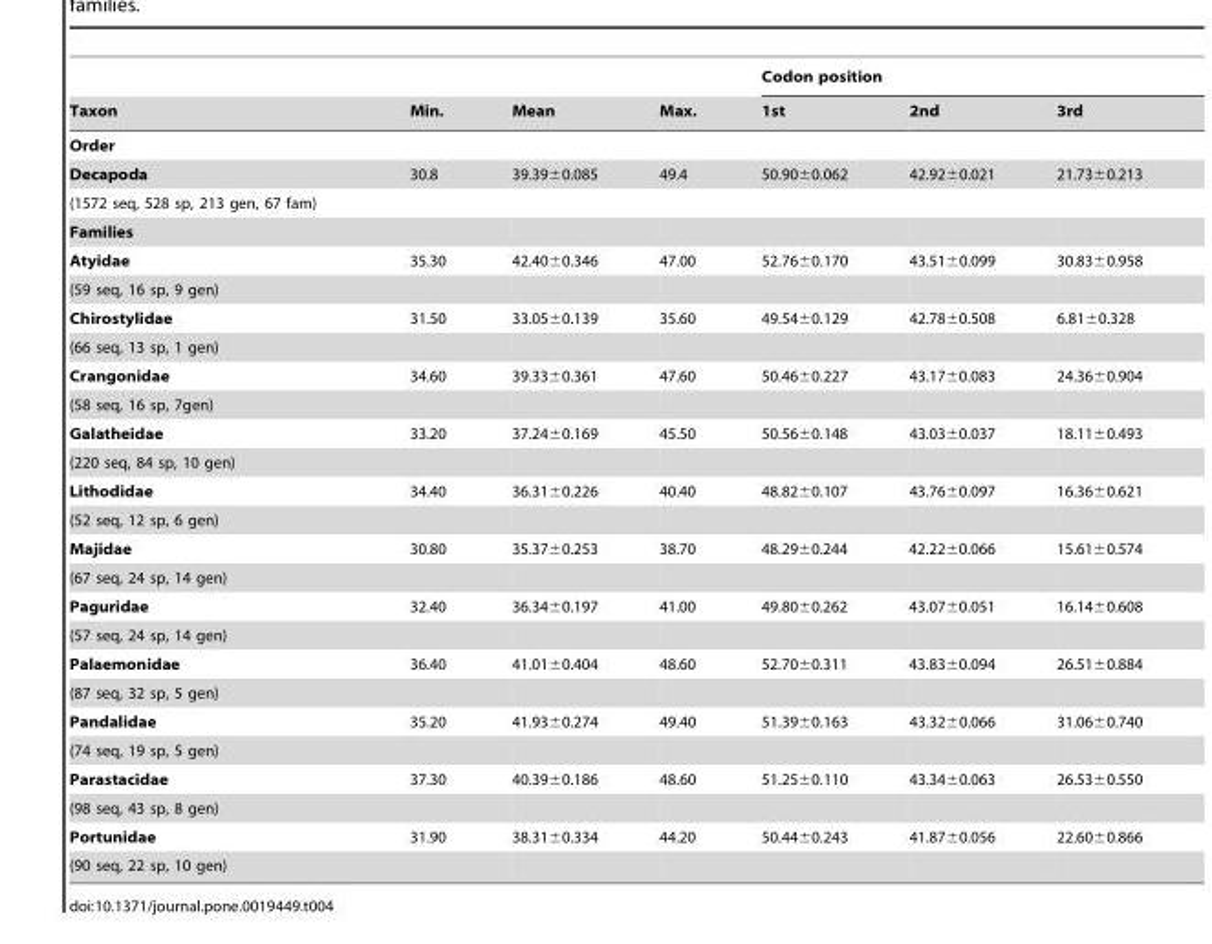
<table><thead><tr><td rowspan="2">Taxon</td><td rowspan="2">Min.</td><td rowspan="2">Mean</td><td rowspan="2">Max.</td><td colspan="3">Codon position</td></tr><tr><td>1st</td><td>2nd</td><td>3rd</td></tr></thead><tbody><tr><td colspan="7">Order</td></tr><tr><td>Decapoda</td><td>30.8</td><td>39.39±0.085</td><td>49.4</td><td>50.90±0.062</td><td>42.92±0.021</td><td>21.73±0.213</td></tr><tr><td colspan="7">(1572 seq, 528 sp, 213 gen, 67 fam)</td></tr><tr><td colspan="7">Families</td></tr><tr><td>Atyidae</td><td>35.30</td><td>42.40±0.346</td><td>47.00</td><td>52.76±0.170</td><td>43.51±0.099</td><td>30.83±0.958</td></tr><tr><td colspan="7">(59 seq, 16 sp, 9 gen)</td></tr><tr><td>Chirostylidae</td><td>31.50</td><td>33.05±0.139</td><td>35.60</td><td>49.54±0.129</td><td>42.78±0.508</td><td>6.81±0.328</td></tr><tr><td colspan="7">(66 seq, 13 sp, 1 gen)</td></tr><tr><td>Crangonidae</td><td>34.60</td><td>39.33±0.361</td><td>47.60</td><td>50.46±0.227</td><td>43.17±0.083</td><td>24.36±0.904</td></tr><tr><td colspan="7">(58 seq, 16 sp, 7gen)</td></tr><tr><td>Galatheidae</td><td>33.20</td><td>37.24±0.169</td><td>45.50</td><td>50.56±0.148</td><td>43.03±0.037</td><td>18.11±0.493</td></tr><tr><td colspan="7">(220 seq, 84 sp, 10 gen)</td></tr><tr><td>Lithodidae</td><td>34.40</td><td>36.31±0.226</td><td>40.40</td><td>48.82±0.107</td><td>43.76±0.097</td><td>16.36±0.621</td></tr><tr><td colspan="7">(52 seq, 12 sp, 6 gen)</td></tr><tr><td>Majidae</td><td>30.80</td><td>35.37±0.253</td><td>38.70</td><td>48.29±0.244</td><td>42.22±0.066</td><td>15.61±0.574</td></tr><tr><td colspan="7">(67 seq, 24 sp, 14 gen)</td></tr><tr><td>Paguridae</td><td>32.40</td><td>36.34±0.197</td><td>41.00</td><td>49.80±0.262</td><td>43.07±0.051</td><td>16.14±0.608</td></tr><tr><td colspan="7">(57 seq, 24 sp, 14 gen)</td></tr><tr><td>Palaemonidae</td><td>36.40</td><td>41.01±0.404</td><td>48.60</td><td>52.70±0.311</td><td>43.83±0.094</td><td>26.51±0.884</td></tr><tr><td colspan="7">(87 seq, 32 sp, 5 gen)</td></tr><tr><td>Pandalidae</td><td>35.20</td><td>41.93±0.274</td><td>49.40</td><td>51.39±0.163</td><td>43.32±0.066</td><td>31.06±0.740</td></tr><tr><td colspan="7">(74 seq, 19 sp, 5 gen)</td></tr><tr><td>Parastacidae</td><td>37.30</td><td>40.39±0.186</td><td>48.60</td><td>51.25±0.110</td><td>43.34±0.063</td><td>26.53±0.550</td></tr><tr><td colspan="7">(98 seq, 43 sp, 8 gen)</td></tr><tr><td>Portunidae</td><td>31.90</td><td>38.31±0.334</td><td>44.20</td><td>50.44±0.243</td><td>41.87±0.056</td><td>22.60±0.866</td></tr><tr><td>(90 seq, 22 sp, 10 gen)</td><td></td><td></td><td></td><td></td><td></td><td></td></tr></tbody></table>